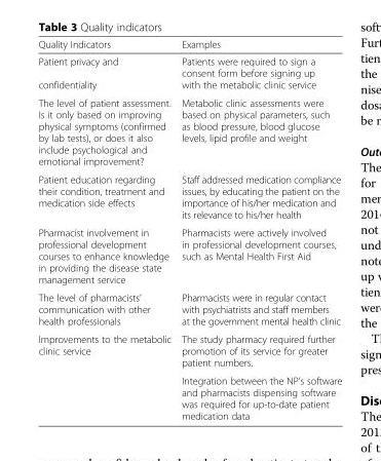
<table><thead><tr><td>Quality Indicators</td><td>Examples</td></tr></thead><tbody><tr><td>Patient privacy and confidentiality</td><td>Patients were required to sign a consent form before signing up with the metabolic clinic service</td></tr><tr><td>The level of patient assessment. Is it only based on improving physical symptoms (confirmed by lab tests), or does it also include psychological and emotional improvement?</td><td>Metabolic clinic assessments were based on physical parameters, such as blood pressure, blood glucose levels, lipid profile and weight</td></tr><tr><td>Patient education regarding their condition, treatment and medication side effects</td><td>Staff addressed medication compliance issues, by educating the patient on the importance of his/her medication and its relevance to his/her health</td></tr><tr><td>Pharmacist involvement in professional development courses to enhance knowledge in providing the disease state management service</td><td>Pharmacists were actively involved in professional development courses, such as Mental Health First Aid</td></tr><tr><td>The level of pharmacists’ communication with other health professionals</td><td>Pharmacists were in regular contact with psychiatrists and staff members at the government mental health clinic</td></tr><tr><td rowspan="2">Improvements to the metabolic clinic service</td><td>The study pharmacy required further promotion of its service for greater patient numbers.</td></tr><tr><td>Integration between the NP’s software and pharmacists dispensing software was required for up-to-date patient medication data</td></tr></tbody></table>